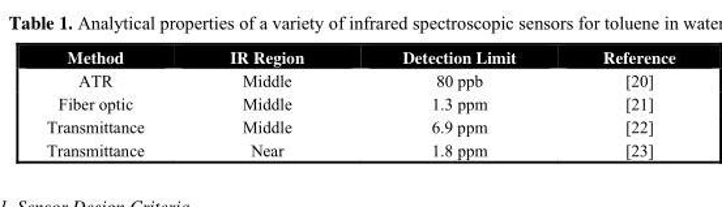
<table><thead><tr><td>Method</td><td>IR Region</td><td>Detection Limit</td><td>Reference</td></tr></thead><tbody><tr><td>ATR</td><td>Middle</td><td>80 ppb</td><td>[20]</td></tr><tr><td>Fiber optic</td><td>Middle</td><td>1.3 ppm</td><td>[21]</td></tr><tr><td>Transmittance</td><td>Middle</td><td>6.9 ppm</td><td>[22]</td></tr><tr><td>Transmittance</td><td>Near</td><td>1.8 ppm</td><td>[23]</td></tr></tbody></table>